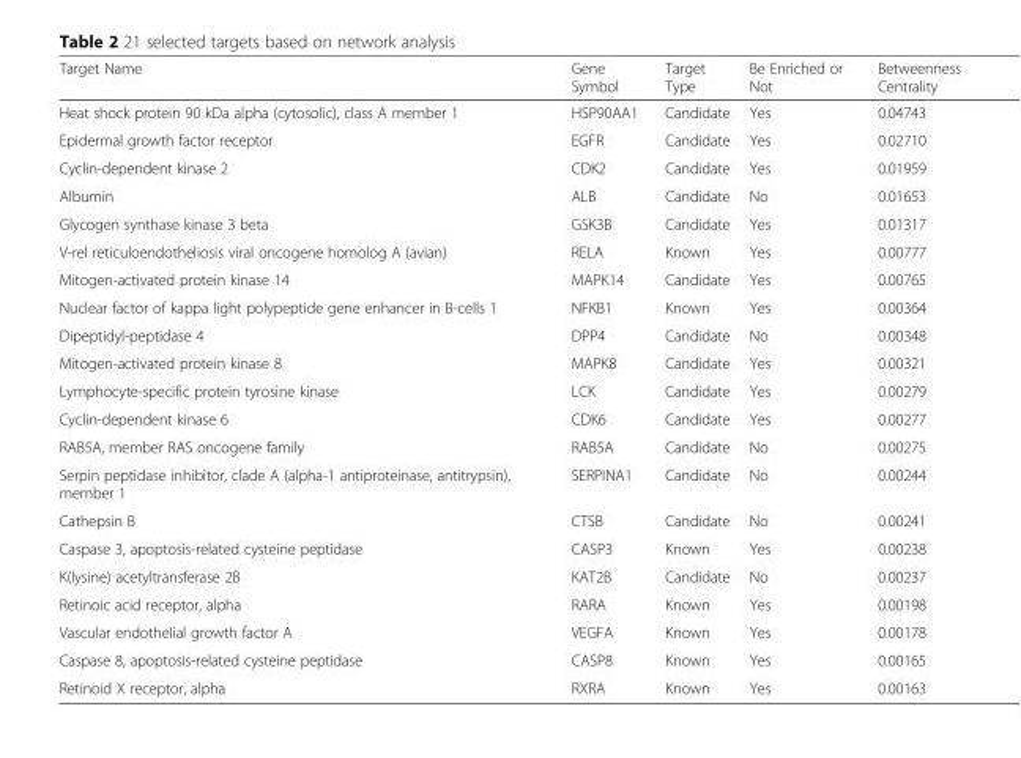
<table><thead><tr><td>Target Name</td><td>Gene Symbol</td><td>Target Type</td><td>Be Enriched or Not</td><td>Betweenness Centrality</td></tr></thead><tbody><tr><td>Heat shock protein 90 kDa alpha (cytosolic), class A member 1</td><td>HSP90AA1</td><td>Candidate</td><td>Yes</td><td>0.04743</td></tr><tr><td>Epidermal growth factor receptor</td><td>EGFR</td><td>Candidate</td><td>Yes</td><td>0.02710</td></tr><tr><td>Cyclin-dependent kinase 2</td><td>CDK2</td><td>Candidate</td><td>Yes</td><td>0.01959</td></tr><tr><td>Albumin</td><td>ALB</td><td>Candidate</td><td>No</td><td>0.01653</td></tr><tr><td>Glycogen synthase kinase 3 beta</td><td>GSK3B</td><td>Candidate</td><td>Yes</td><td>0.01317</td></tr><tr><td>V-rel reticuloendotheliosis viral oncogene homolog A (avian)</td><td>RELA</td><td>Known</td><td>Yes</td><td>0.00777</td></tr><tr><td>Mitogen-activated protein kinase 14</td><td>MAPK14</td><td>Candidate</td><td>Yes</td><td>0.00765</td></tr><tr><td>Nuclear factor of kappa light polypeptide gene enhancer in B-cells 1</td><td>NFKB1</td><td>Known</td><td>Yes</td><td>0.00364</td></tr><tr><td>Dipeptidyl-peptidase 4</td><td>DPP4</td><td>Candidate</td><td>No</td><td>0.00348</td></tr><tr><td>Mitogen-activated protein kinase 8</td><td>MAPK8</td><td>Candidate</td><td>Yes</td><td>0.00321</td></tr><tr><td>Lymphocyte-specific protein tyrosine kinase</td><td>LCK</td><td>Candidate</td><td>Yes</td><td>0.00279</td></tr><tr><td>Cyclin-dependent kinase 6</td><td>CDK6</td><td>Candidate</td><td>Yes</td><td>0.00277</td></tr><tr><td>RAB5A, member RAS oncogene family</td><td>RAB5A</td><td>Candidate</td><td>No</td><td>0.00275</td></tr><tr><td>Serpin peptidase inhibitor, clade A (alpha-1 antiproteinase, antitrypsin), member 1</td><td>SERPINA1</td><td>Candidate</td><td>No</td><td>0.00244</td></tr><tr><td>Cathepsin B</td><td>CTSB</td><td>Candidate</td><td>No</td><td>0.00241</td></tr><tr><td>Caspase 3, apoptosis-related cysteine peptidase</td><td>CASP3</td><td>Known</td><td>Yes</td><td>0.00238</td></tr><tr><td>K(lysine) acetyltransferase 2B</td><td>KAT2B</td><td>Candidate</td><td>No</td><td>0.00237</td></tr><tr><td>Retinoic acid receptor, alpha</td><td>RARA</td><td>Known</td><td>Yes</td><td>0.00198</td></tr><tr><td>Vascular endothelial growth factor A</td><td>VEGFA</td><td>Known</td><td>Yes</td><td>0.00178</td></tr><tr><td>Caspase 8, apoptosis-related cysteine peptidase</td><td>CASP8</td><td>Known</td><td>Yes</td><td>0.00165</td></tr><tr><td>Retinoid X receptor, alpha</td><td>RXRA</td><td>Known</td><td>Yes</td><td>0.00163</td></tr></tbody></table>